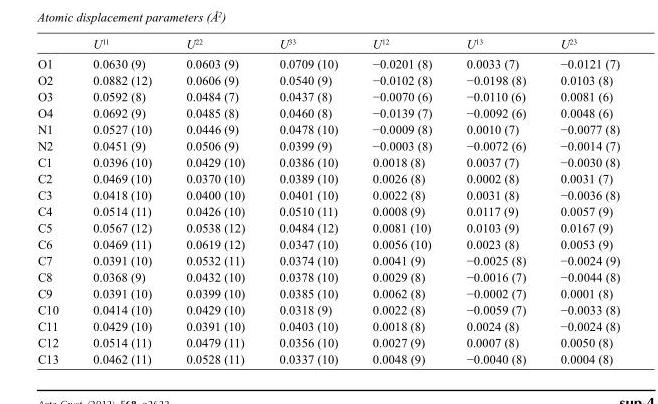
<table><thead><tr><td></td><td>U<sup>11</sup></td><td>U<sup>22</sup></td><td>U<sup>33</sup></td><td>U<sup>12</sup></td><td>U<sup>13</sup></td><td>U<sup>23</sup></td></tr></thead><tbody><tr><td>O1</td><td>0.0630 (9)</td><td>0.0603 (9)</td><td>0.0709 (10)</td><td>−0.0201 (8)</td><td>0.0033 (7)</td><td>−0.0121 (7)</td></tr><tr><td>O2</td><td>0.0882 (12)</td><td>0.0606 (9)</td><td>0.0540 (9)</td><td>−0.0102 (8)</td><td>−0.0198 (8)</td><td>0.0103 (8)</td></tr><tr><td>O3</td><td>0.0592 (8)</td><td>0.0484 (7)</td><td>0.0437 (8)</td><td>−0.0070 (6)</td><td>−0.0110 (6)</td><td>0.0081 (6)</td></tr><tr><td>O4</td><td>0.0692 (9)</td><td>0.0485 (8)</td><td>0.0460 (8)</td><td>−0.0139 (7)</td><td>−0.0092 (6)</td><td>0.0048 (6)</td></tr><tr><td>N1</td><td>0.0527 (10)</td><td>0.0446 (9)</td><td>0.0478 (10)</td><td>−0.0009 (8)</td><td>0.0010 (7)</td><td>−0.0077 (8)</td></tr><tr><td>N2</td><td>0.0451 (9)</td><td>0.0506 (9)</td><td>0.0399 (9)</td><td>−0.0003 (8)</td><td>−0.0072 (6)</td><td>−0.0014 (7)</td></tr><tr><td>C1</td><td>0.0396 (10)</td><td>0.0429 (10)</td><td>0.0386 (10)</td><td>0.0018 (8)</td><td>0.0037 (7)</td><td>−0.0030 (8)</td></tr><tr><td>C2</td><td>0.0469 (10)</td><td>0.0370 (10)</td><td>0.0389 (10)</td><td>0.0026 (8)</td><td>0.0002 (8)</td><td>0.0031 (7)</td></tr><tr><td>C3</td><td>0.0418 (10)</td><td>0.0400 (10)</td><td>0.0401 (10)</td><td>0.0022 (8)</td><td>0.0031 (8)</td><td>−0.0036 (8)</td></tr><tr><td>C4</td><td>0.0514 (11)</td><td>0.0426 (10)</td><td>0.0510 (11)</td><td>0.0008 (9)</td><td>0.0117 (9)</td><td>0.0057 (9)</td></tr><tr><td>C5</td><td>0.0567 (12)</td><td>0.0538 (12)</td><td>0.0484 (12)</td><td>0.0081 (10)</td><td>0.0103 (9)</td><td>0.0167 (9)</td></tr><tr><td>C6</td><td>0.0469 (11)</td><td>0.0619 (12)</td><td>0.0347 (10)</td><td>0.0056 (10)</td><td>0.0023 (8)</td><td>0.0053 (9)</td></tr><tr><td>C7</td><td>0.0391 (10)</td><td>0.0532 (11)</td><td>0.0374 (10)</td><td>0.0041 (9)</td><td>−0.0025 (8)</td><td>−0.0024 (9)</td></tr><tr><td>C8</td><td>0.0368 (9)</td><td>0.0432 (10)</td><td>0.0378 (10)</td><td>0.0029 (8)</td><td>−0.0016 (7)</td><td>−0.0044 (8)</td></tr><tr><td>C9</td><td>0.0391 (10)</td><td>0.0399 (10)</td><td>0.0385 (10)</td><td>0.0062 (8)</td><td>−0.0002 (7)</td><td>0.0001 (8)</td></tr><tr><td>C10</td><td>0.0414 (10)</td><td>0.0429 (10)</td><td>0.0318 (9)</td><td>0.0022 (8)</td><td>−0.0059 (7)</td><td>−0.0033 (8)</td></tr><tr><td>C11</td><td>0.0429 (10)</td><td>0.0391 (10)</td><td>0.0403 (10)</td><td>0.0018 (8)</td><td>0.0024 (8)</td><td>−0.0024 (8)</td></tr><tr><td>C12</td><td>0.0514 (11)</td><td>0.0479 (11)</td><td>0.0356 (10)</td><td>0.0027 (9)</td><td>0.0007 (8)</td><td>0.0050 (8)</td></tr><tr><td>C13</td><td>0.0462 (11)</td><td>0.0528 (11)</td><td>0.0337 (10)</td><td>0.0048 (9)</td><td>−0.0040 (8)</td><td>0.0004 (8)</td></tr></tbody></table>